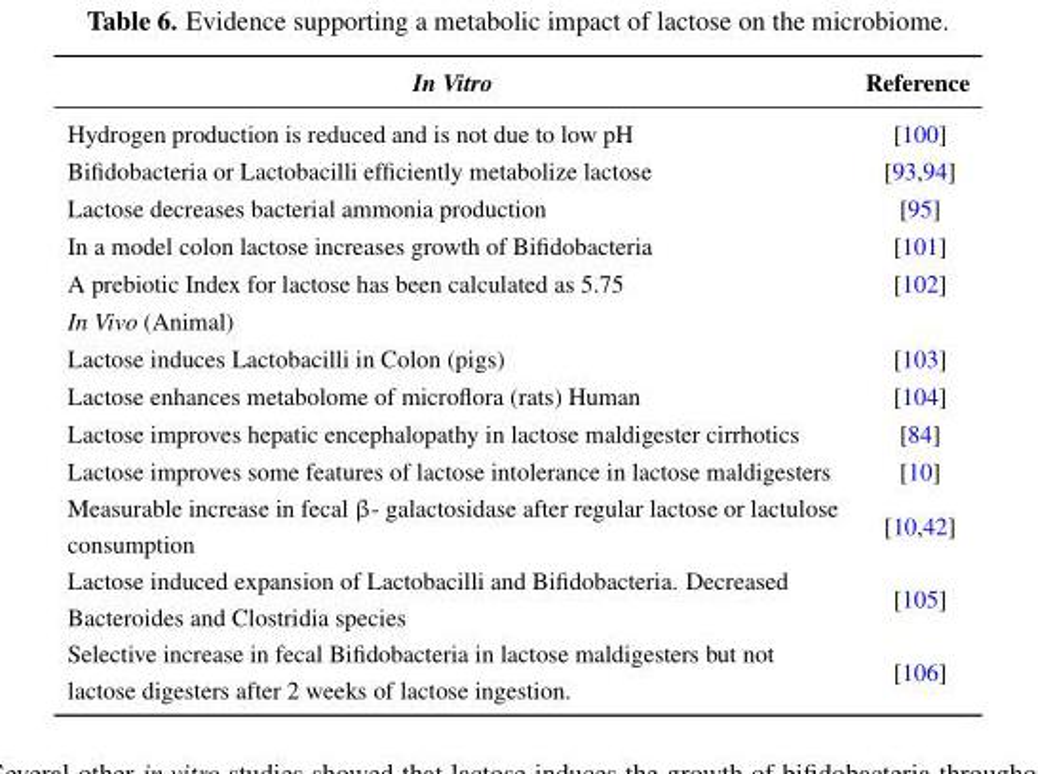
<table><thead><tr><td>In Vitro</td><td>Reference</td></tr></thead><tbody><tr><td>Hydrogen production is reduced and is not due to low pH</td><td>[100]</td></tr><tr><td>Bifidobacteria or Lactobacilli efficiently metabolize lactose</td><td>[93,94]</td></tr><tr><td>Lactose decreases bacterial ammonia production</td><td>[95]</td></tr><tr><td>In a model colon lactose increases growth of Bifidobacteria</td><td>[101]</td></tr><tr><td>A prebiotic Index for lactose has been calculated as 5.75</td><td>[102]</td></tr><tr><td colspan="2">In Vivo (Animal)</td></tr><tr><td>Lactose induces Lactobacilli in Colon (pigs)</td><td>[103]</td></tr><tr><td>Lactose enhances metabolome of microflora (rats) Human</td><td>[104]</td></tr><tr><td>Lactose improves hepatic encephalopathy in lactose maldigester cirrhotics</td><td>[84]</td></tr><tr><td>Lactose improves some features of lactose intolerance in lactose maldigesters</td><td>[10]</td></tr><tr><td>Measurable increase in fecal β- galactosidase after regular lactose or lactulose consumption</td><td>[10,42]</td></tr><tr><td>Lactose induced expansion of Lactobacilli and Bifidobacteria. Decreased Bacteroides and Clostridia species</td><td>[105]</td></tr><tr><td>Selective increase in fecal Bifidobacteria in lactose maldigesters but not lactose digesters after 2 weeks of lactose ingestion.</td><td>[106]</td></tr></tbody></table>